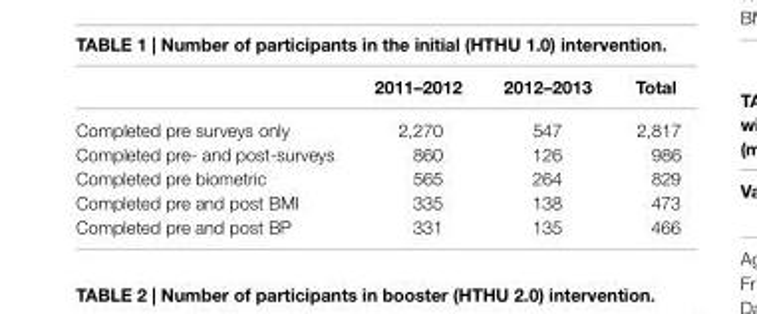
<table><thead><tr><td></td><td>2011–2012</td><td>2012–2013</td><td>Total</td></tr></thead><tbody><tr><td>Completed pre surveys only</td><td>2,270</td><td>547</td><td>2,817</td></tr><tr><td>Completed pre- and post-surveys</td><td>860</td><td>126</td><td>986</td></tr><tr><td>Completed pre biometric</td><td>565</td><td>264</td><td>829</td></tr><tr><td>Completed pre and post BMI</td><td>335</td><td>138</td><td>473</td></tr><tr><td>Completed pre and post BP</td><td>331</td><td>135</td><td>466</td></tr></tbody></table>